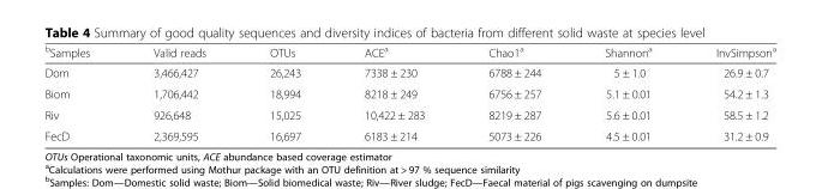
<table><thead><tr><td><sup>b</sup>Samples</td><td>Valid reads</td><td>OTUs</td><td>ACE<sup>a</sup></td><td>Chao1<sup>a</sup></td><td>Shannon<sup>a</sup></td><td>InvSimpson<sup>a</sup></td></tr></thead><tbody><tr><td>Dom</td><td>3,466,427</td><td>26,243</td><td>7338 ± 230</td><td>6788 ± 244</td><td>5 ± 1.0</td><td>26.9 ± 0.7</td></tr><tr><td>Biom</td><td>1,706,442</td><td>18,994</td><td>8218 ± 249</td><td>6756 ± 257</td><td>5.1 ± 0.01</td><td>54.2 ± 1.3</td></tr><tr><td>Riv</td><td>926,648</td><td>15,025</td><td>10,422 ± 283</td><td>8219 ± 287</td><td>5.6 ± 0.01</td><td>58.5 ± 1.2</td></tr><tr><td>FecD</td><td>2,369,595</td><td>16,697</td><td>6183 ± 214</td><td>5073 ± 226</td><td>4.5 ± 0.01</td><td>31.2 ± 0.9</td></tr></tbody></table>